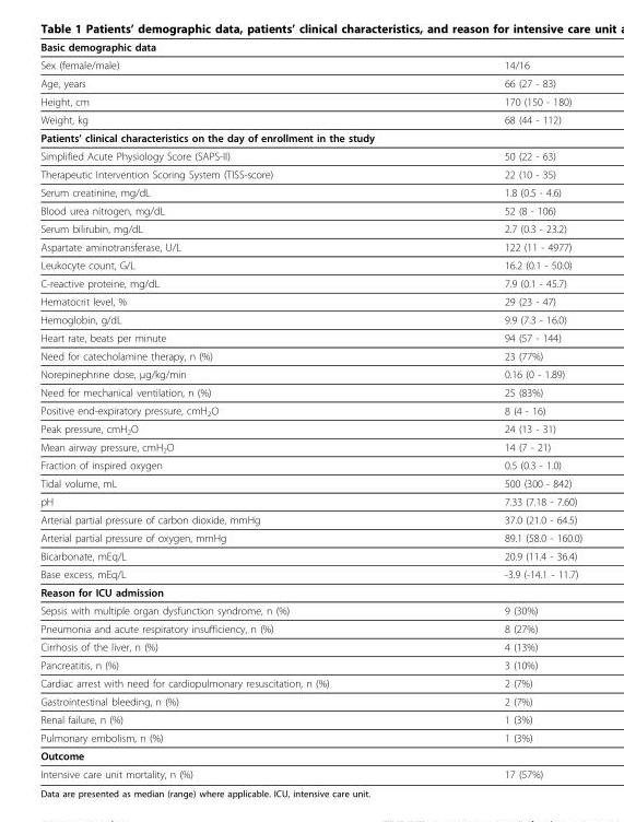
<table><thead><tr><td>Basic demographic data</td><td></td></tr></thead><tbody><tr><td>Sex (female/male)</td><td>14/16</td></tr><tr><td>Age, years</td><td>66 (27 - 83)</td></tr><tr><td>Height, cm</td><td>170 (150 - 180)</td></tr><tr><td>Weight, kg</td><td>68 (44 - 112)</td></tr><tr><td colspan="2">Patients’ clinical characteristics on the day of enrollment in the study</td></tr><tr><td>Simplified Acute Physiology Score (SAPS-II)</td><td>50 (22 - 63)</td></tr><tr><td>Therapeutic Intervention Scoring System (TISS-score)</td><td>22 (10 - 35)</td></tr><tr><td>Serum creatinine, mg/dL</td><td>1.8 (0.5 - 4.6)</td></tr><tr><td>Blood urea nitrogen, mg/dL</td><td>52 (8 - 106)</td></tr><tr><td>Serum bilirubin, mg/dL</td><td>2.7 (0.3 - 23.2)</td></tr><tr><td>Aspartate aminotransferase, U/L</td><td>122 (11 - 4977)</td></tr><tr><td>Leukocyte count, G/L</td><td>16.2 (0.1 - 50.0)</td></tr><tr><td>C-reactive proteine, mg/dL</td><td>7.9 (0.1 - 45.7)</td></tr><tr><td>Hematocrit level, %</td><td>29 (23 - 47)</td></tr><tr><td>Hemoglobin, g/dL</td><td>9.9 (7.3 - 16.0)</td></tr><tr><td>Heart rate, beats per minute</td><td>94 (57 - 144)</td></tr><tr><td>Need for catecholamine therapy, n (%)</td><td>23 (77%)</td></tr><tr><td>Norepinephrine dose, μg/kg/min</td><td>0.16 (0 - 1.89)</td></tr><tr><td>Need for mechanical ventilation, n (%)</td><td>25 (83%)</td></tr><tr><td>Positive end-expiratory pressure, cmH<sub>2</sub>O</td><td>8 (4 - 16)</td></tr><tr><td>Peak pressure, cmH<sub>2</sub>O</td><td>24 (13 - 31)</td></tr><tr><td>Mean airway pressure, cmH<sub>2</sub>O</td><td>14 (7 - 21)</td></tr><tr><td>Fraction of inspired oxygen</td><td>0.5 (0.3 - 1.0)</td></tr><tr><td>Tidal volume, mL</td><td>500 (300 - 842)</td></tr><tr><td>pH</td><td>7.33 (7.18 - 7.60)</td></tr><tr><td>Arterial partial pressure of carbon dioxide, mmHg</td><td>37.0 (21.0 - 64.5)</td></tr><tr><td>Arterial partial pressure of oxygen, mmHg</td><td>89.1 (58.0 - 160.0)</td></tr><tr><td>Bicarbonate, mEq/L</td><td>20.9 (11.4 - 36.4)</td></tr><tr><td>Base excess, mEq/L</td><td>-3.9 (-14.1 - 11.7)</td></tr><tr><td colspan="2">Reason for ICU admission</td></tr><tr><td>Sepsis with multiple organ dysfunction syndrome, n (%)</td><td>9 (30%)</td></tr><tr><td>Pneumonia and acute respiratory insufficiency, n (%)</td><td>8 (27%)</td></tr><tr><td>Cirrhosis of the liver, n (%)</td><td>4 (13%)</td></tr><tr><td>Pancreatitis, n (%)</td><td>3 (10%)</td></tr><tr><td>Cardiac arrest with need for cardiopulmonary resuscitation, n (%)</td><td>2 (7%)</td></tr><tr><td>Gastrointestinal bleeding, n (%)</td><td>2 (7%)</td></tr><tr><td>Renal failure, n (%)</td><td>1 (3%)</td></tr><tr><td>Pulmonary embolism, n (%)</td><td>1 (3%)</td></tr><tr><td colspan="2">Outcome</td></tr><tr><td>Intensive care unit mortality, n (%)</td><td>17 (57%)</td></tr></tbody></table>